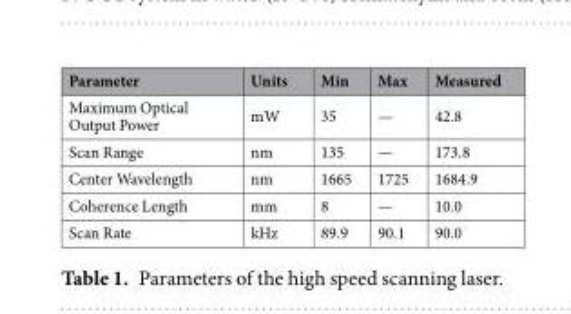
<table><thead><tr><td>Parameter</td><td>Units</td><td>Min</td><td>Max</td><td>Measured</td></tr></thead><tbody><tr><td>Maximum Optical Output Power</td><td>mW</td><td>35</td><td>—</td><td>42.8</td></tr><tr><td>Scan Range</td><td>nm</td><td>135</td><td>—</td><td>173.8</td></tr><tr><td>Center Wavelength</td><td>nm</td><td>1665</td><td>1725</td><td>1684.9</td></tr><tr><td>Coherence Length</td><td>mm</td><td>8</td><td>—</td><td>10.0</td></tr><tr><td>Scan Rate</td><td>kHz</td><td>89.9</td><td>90.1</td><td>90.0</td></tr></tbody></table>